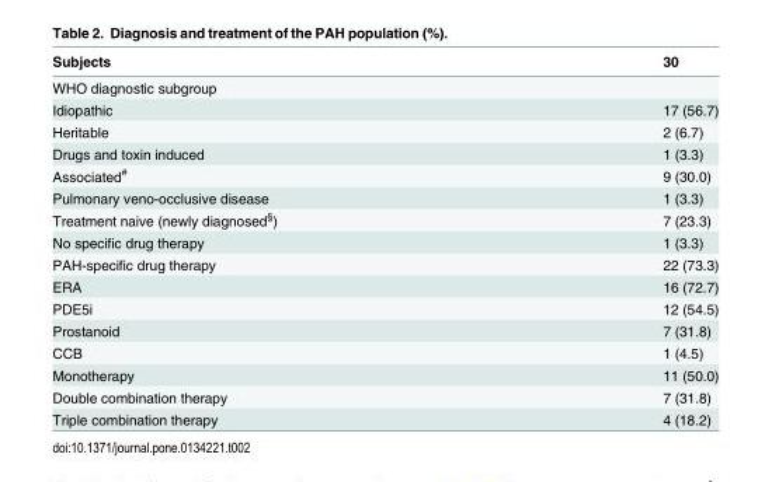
<table><thead><tr><td>Subjects</td><td>30</td></tr></thead><tbody><tr><td colspan="2">WHO diagnostic subgroup</td></tr><tr><td>Idiopathic</td><td>17 (56.7)</td></tr><tr><td>Heritable</td><td>2 (6.7)</td></tr><tr><td>Drugs and toxin induced</td><td>1 (3.3)</td></tr><tr><td>Associated<sup>#</sup></td><td>9 (30.0)</td></tr><tr><td>Pulmonary veno-occlusive disease</td><td>1 (3.3)</td></tr><tr><td>Treatment naive (newly diagnosed<sup>§</sup>)</td><td>7 (23.3)</td></tr><tr><td>No specific drug therapy</td><td>1 (3.3)</td></tr><tr><td>PAH-specific drug therapy</td><td>22 (73.3)</td></tr><tr><td>ERA</td><td>16 (72.7)</td></tr><tr><td>PDE5i</td><td>12 (54.5)</td></tr><tr><td>Prostanoid</td><td>7 (31.8)</td></tr><tr><td>CCB</td><td>1 (4.5)</td></tr><tr><td>Monotherapy</td><td>11 (50.0)</td></tr><tr><td>Double combination therapy</td><td>7 (31.8)</td></tr><tr><td>Triple combination therapy</td><td>4 (18.2)</td></tr></tbody></table>